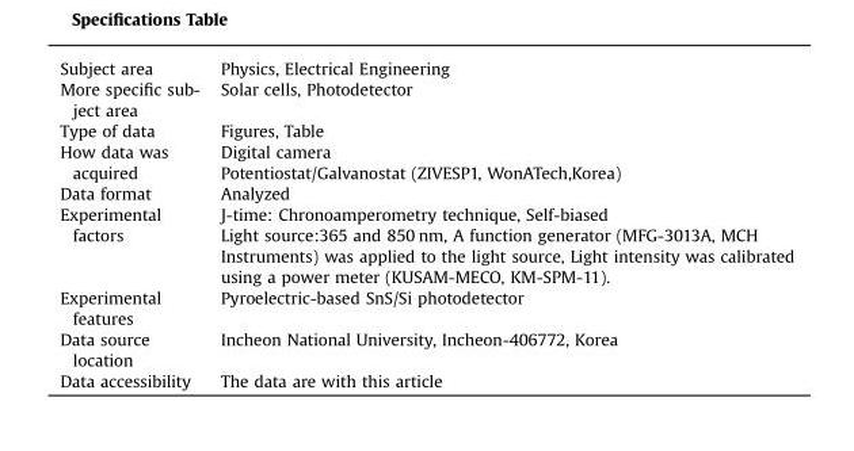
<table><tbody><tr><td>Subject area</td><td>Physics, Electrical Engineering</td></tr><tr><td>More specific sub- ject area</td><td>Solar cells, Photodetector</td></tr><tr><td>Type of data</td><td>Figures, Table</td></tr><tr><td rowspan="2">How data was acquired</td><td>Digital camera</td></tr><tr><td>Potentiostat/Galvanostat (ZIVESP1, WonATech,Korea)</td></tr><tr><td>Data format</td><td>Analyzed</td></tr><tr><td rowspan="2">Experimental factors</td><td>J-time: Chronoamperometry technique, Self-biased</td></tr><tr><td>Light source:365 and 850 nm, A function generator (MFG-3013A, MCH Instruments) was applied to the light source, Light intensity was calibrated using a power meter (KUSAM-MECO, KM-SPM-11).</td></tr><tr><td>Experimental features</td><td>Pyroelectric-based SnS/Si photodetector</td></tr><tr><td>Data source location</td><td>Incheon National University, Incheon-406772, Korea</td></tr><tr><td>Data accessibility</td><td>The data are with this article</td></tr></tbody></table>